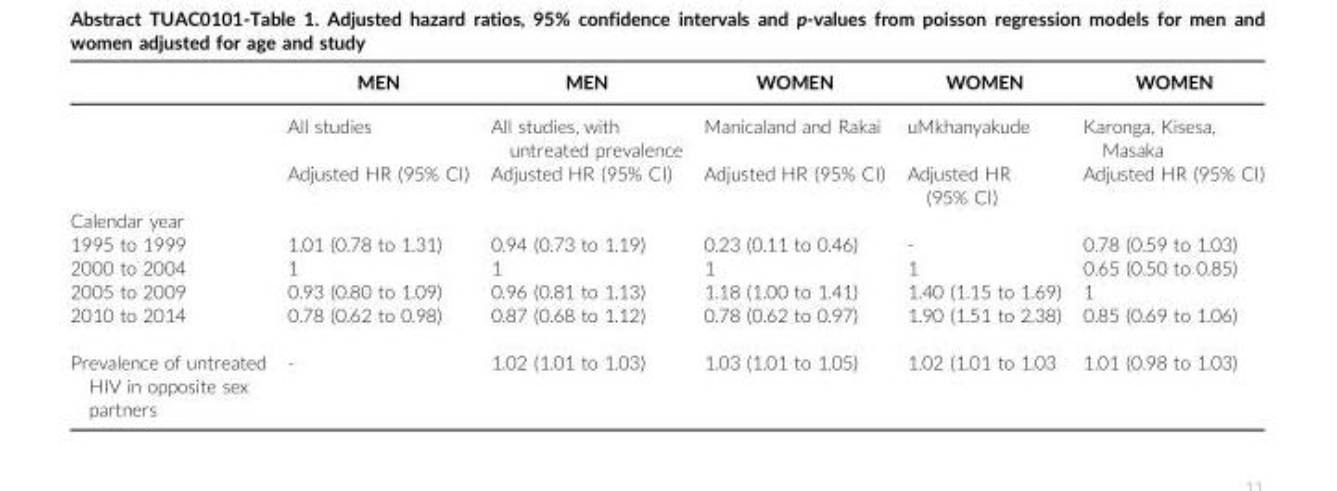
<table><thead><tr><td></td><td>MEN</td><td>MEN</td><td>WOMEN</td><td>WOMEN</td><td>WOMEN</td></tr></thead><tbody><tr><td></td><td>All studies</td><td>All studies, with untreated prevalence</td><td>Manicaland and Rakai</td><td>uMkhanyakude</td><td>Karonga, Kisesa, Masaka</td></tr><tr><td></td><td>Adjusted HR (95% CI)</td><td>Adjusted HR (95% CI)</td><td>Adjusted HR (95% CI)</td><td>Adjusted HR (95% CI)</td><td>Adjusted HR (95% CI)</td></tr><tr><td colspan="6">Calendar year</td></tr><tr><td>1995 to 1999</td><td>1.01 (0.78 to 1.31)</td><td>0.94 (0.73 to 1.19)</td><td>0.23 (0.11 to 0.46)</td><td>-</td><td>0.78 (0.59 to 1.03)</td></tr><tr><td>2000 to 2004</td><td>1</td><td>1</td><td>1</td><td>1</td><td>0.65 (0.50 to 0.85)</td></tr><tr><td>2005 to 2009</td><td>0.93 (0.80 to 1.09)</td><td>0.96 (0.81 to 1.13)</td><td>1.18 (1.00 to 1.41)</td><td>1.40 (1.15 to 1.69)</td><td>1</td></tr><tr><td>2010 to 2014</td><td>0.78 (0.62 to 0.98)</td><td>0.87 (0.68 to 1.12)</td><td>0.78 (0.62 to 0.97)</td><td>1.90 (1.51 to 2.38)</td><td>0.85 (0.69 to 1.06)</td></tr><tr><td>Prevalence of untreated HIV in opposite sex partners</td><td>-</td><td>1.02 (1.01 to 1.03)</td><td>1.03 (1.01 to 1.05)</td><td>1.02 (1.01 to 1.03</td><td>1.01 (0.98 to 1.03)</td></tr></tbody></table>